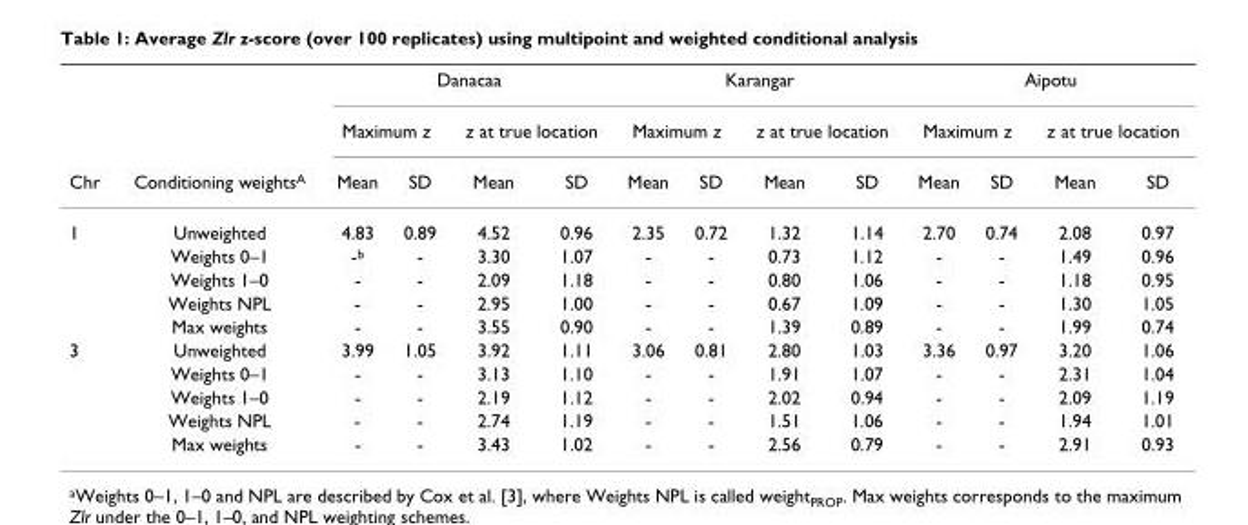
<table><thead><tr><td rowspan="3">Chr</td><td rowspan="3">Conditioning weightsA</td><td colspan="4">Danacaa</td><td colspan="4">Karangar</td><td colspan="4">Aipotu</td></tr><tr><td colspan="2">Maximum z</td><td colspan="2">z at true location</td><td colspan="2">Maximum z</td><td colspan="2">z at true location</td><td colspan="2">Maximum z</td><td colspan="2">z at true location</td></tr><tr><td>Mean</td><td>SD</td><td>Mean</td><td>SD</td><td>Mean</td><td>SD</td><td>Mean</td><td>SD</td><td>Mean</td><td>SD</td><td>Mean</td><td>SD</td></tr></thead><tbody><tr><td rowspan="5">1</td><td>Unweighted</td><td>4.83</td><td>0.89</td><td>4.52</td><td>0.96</td><td>2.35</td><td>0.72</td><td>1.32</td><td>1.14</td><td>2.70</td><td>0.74</td><td>2.08</td><td>0.97</td></tr><tr><td>Weights 0–1</td><td>-b</td><td>-</td><td>3.30</td><td>1.07</td><td>-</td><td>-</td><td>0.73</td><td>1.12</td><td>-</td><td>-</td><td>1.49</td><td>0.96</td></tr><tr><td>Weights 1–0</td><td>-</td><td>-</td><td>2.09</td><td>1.18</td><td>-</td><td>-</td><td>0.80</td><td>1.06</td><td>-</td><td>-</td><td>1.18</td><td>0.95</td></tr><tr><td>Weights NPL</td><td>-</td><td>-</td><td>2.95</td><td>1.00</td><td>-</td><td>-</td><td>0.67</td><td>1.09</td><td>-</td><td>-</td><td>1.30</td><td>1.05</td></tr><tr><td>Max weights</td><td>-</td><td>-</td><td>3.55</td><td>0.90</td><td>-</td><td>-</td><td>1.39</td><td>0.89</td><td>-</td><td>-</td><td>1.99</td><td>0.74</td></tr><tr><td rowspan="5">3</td><td>Unweighted</td><td>3.99</td><td>1.05</td><td>3.92</td><td>1.11</td><td>3.06</td><td>0.81</td><td>2.80</td><td>1.03</td><td>3.36</td><td>0.97</td><td>3.20</td><td>1.06</td></tr><tr><td>Weights 0–1</td><td>-</td><td>-</td><td>3.13</td><td>1.10</td><td>-</td><td>-</td><td>1.91</td><td>1.07</td><td>-</td><td>-</td><td>2.31</td><td>1.04</td></tr><tr><td>Weights 1–0</td><td>-</td><td>-</td><td>2.19</td><td>1.12</td><td>-</td><td>-</td><td>2.02</td><td>0.94</td><td>-</td><td>-</td><td>2.09</td><td>1.19</td></tr><tr><td>Weights NPL</td><td>-</td><td>-</td><td>2.74</td><td>1.19</td><td>-</td><td>-</td><td>1.51</td><td>1.06</td><td>-</td><td>-</td><td>1.94</td><td>1.01</td></tr><tr><td>Max weights</td><td>-</td><td>-</td><td>3.43</td><td>1.02</td><td>-</td><td>-</td><td>2.56</td><td>0.79</td><td>-</td><td>-</td><td>2.91</td><td>0.93</td></tr></tbody></table>